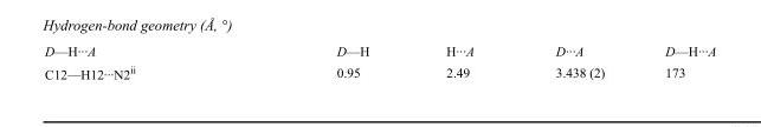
<table><tbody><tr><td>D—H···A</td><td>D—H</td><td>H···A</td><td>D···A</td><td>D—H···A</td></tr><tr><td>C12—H12···N2<sup>ii</sup></td><td>0.95</td><td>2.49</td><td>3.438 (2)</td><td>173</td></tr></tbody></table>